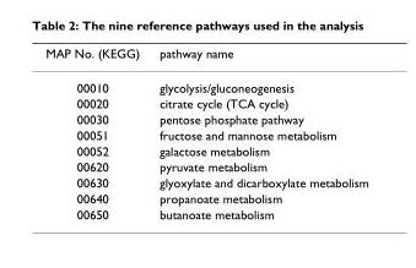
<table><thead><tr><td>MAP No. (KEGG)</td><td>pathway name</td></tr></thead><tbody><tr><td>00010</td><td>glycolysis/gluconeogenesis</td></tr><tr><td>00020</td><td>citrate cycle (TCA cycle)</td></tr><tr><td>00030</td><td>pentose phosphate pathway</td></tr><tr><td>00051</td><td>fructose and mannose metabolism</td></tr><tr><td>00052</td><td>galactose metabolism</td></tr><tr><td>00620</td><td>pyruvate metabolism</td></tr><tr><td>00630</td><td>glyoxylate and dicarboxylate metabolism</td></tr><tr><td>00640</td><td>propanoate metabolism</td></tr><tr><td>00650</td><td>butanoate metabolism</td></tr></tbody></table>